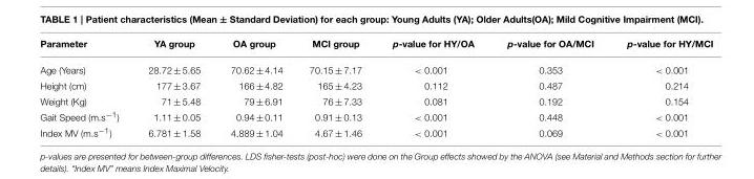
<table><thead><tr><td>Parameter</td><td>YA group</td><td>OA group</td><td>MCI group</td><td>p-value for HY/OA</td><td>p-value for OA/MCI</td><td>p-value for HY/MCI</td></tr></thead><tbody><tr><td>Age (Years)</td><td>28.72 ± 5.65</td><td>70.62 ± 4.14</td><td>70.15 ± 7.17</td><td>&lt; 0.001</td><td>0.353</td><td>&lt; 0.001</td></tr><tr><td>Height (cm)</td><td>177 ± 3.67</td><td>166 ± 4.82</td><td>165 ± 4.23</td><td>0.112</td><td>0.487</td><td>0.214</td></tr><tr><td>Weight (Kg)</td><td>71 ± 5.48</td><td>79 ± 6.91</td><td>76 ± 7.33</td><td>0.081</td><td>0.192</td><td>0.154</td></tr><tr><td>Gait Speed (m.s<sup>−1</sup>)</td><td>1.11 ± 0.05</td><td>0.94 ± 0.11</td><td>0.91 ± 0.13</td><td>&lt; 0.001</td><td>0.448</td><td>&lt; 0.001</td></tr><tr><td>Index MV (m.s<sup>−1</sup>)</td><td>6.781 ± 1.58</td><td>4.889 ± 1.04</td><td>4.67 ± 1.46</td><td>&lt; 0.001</td><td>0.069</td><td>&lt; 0.001</td></tr></tbody></table>